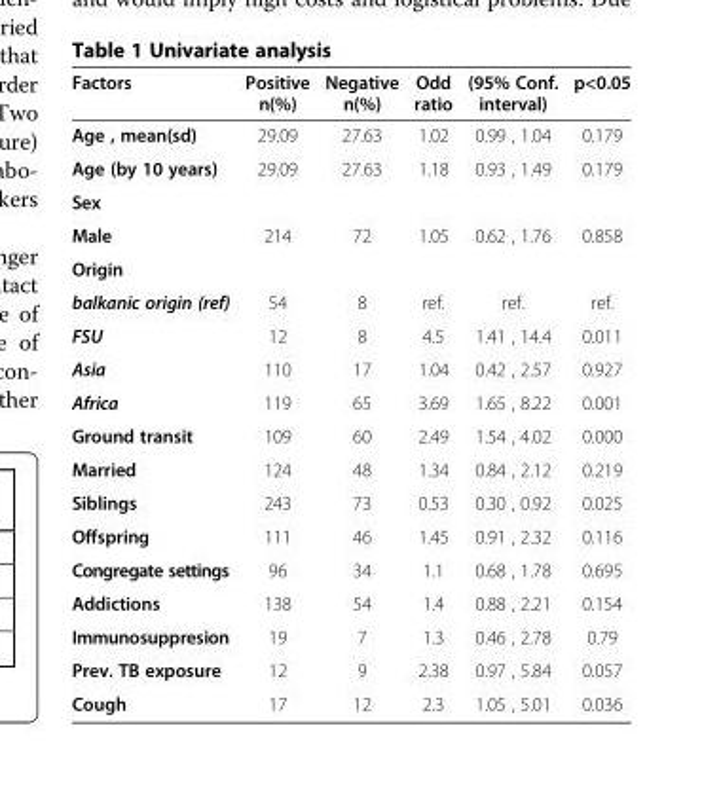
<table><thead><tr><td>Factors</td><td>Positive n(%)</td><td>Negative n(%)</td><td>Odd ratio</td><td>(95% Conf. interval)</td><td>p&lt;0.05</td></tr></thead><tbody><tr><td>Age , mean(sd)</td><td>29.09</td><td>27.63</td><td>1.02</td><td>0.99 , 1.04</td><td>0.179</td></tr><tr><td>Age (by 10 years)</td><td>29.09</td><td>27.63</td><td>1.18</td><td>0.93 , 1.49</td><td>0.179</td></tr><tr><td colspan="6">Sex</td></tr><tr><td>Male</td><td>214</td><td>72</td><td>1.05</td><td>0.62 , 1.76</td><td>0.858</td></tr><tr><td colspan="6">Origin</td></tr><tr><td>balkanic origin (ref)</td><td>54</td><td>8</td><td>ref.</td><td>ref.</td><td>ref.</td></tr><tr><td>FSU</td><td>12</td><td>8</td><td>4.5</td><td>1.41 , 14.4</td><td>0.011</td></tr><tr><td>Asia</td><td>110</td><td>17</td><td>1.04</td><td>0.42 , 2.57</td><td>0.927</td></tr><tr><td>Africa</td><td>119</td><td>65</td><td>3.69</td><td>1.65 , 8.22</td><td>0.001</td></tr><tr><td>Ground transit</td><td>109</td><td>60</td><td>2.49</td><td>1.54 , 4.02</td><td>0.000</td></tr><tr><td>Married</td><td>124</td><td>48</td><td>1.34</td><td>0.84 , 2.12</td><td>0.219</td></tr><tr><td>Siblings</td><td>243</td><td>73</td><td>0.53</td><td>0.30 , 0.92</td><td>0.025</td></tr><tr><td>Offspring</td><td>111</td><td>46</td><td>1.45</td><td>0.91 , 2.32</td><td>0.116</td></tr><tr><td>Congregate settings</td><td>96</td><td>34</td><td>1.1</td><td>0.68 , 1.78</td><td>0.695</td></tr><tr><td>Addictions</td><td>138</td><td>54</td><td>1.4</td><td>0.88 , 2.21</td><td>0.154</td></tr><tr><td>Immunosuppresion</td><td>19</td><td>7</td><td>1.3</td><td>0.46 , 2.78</td><td>0.79</td></tr><tr><td>Prev. TB exposure</td><td>12</td><td>9</td><td>2.38</td><td>0.97 , 5.84</td><td>0.057</td></tr><tr><td>Cough</td><td>17</td><td>12</td><td>2.3</td><td>1.05 , 5.01</td><td>0.036</td></tr></tbody></table>